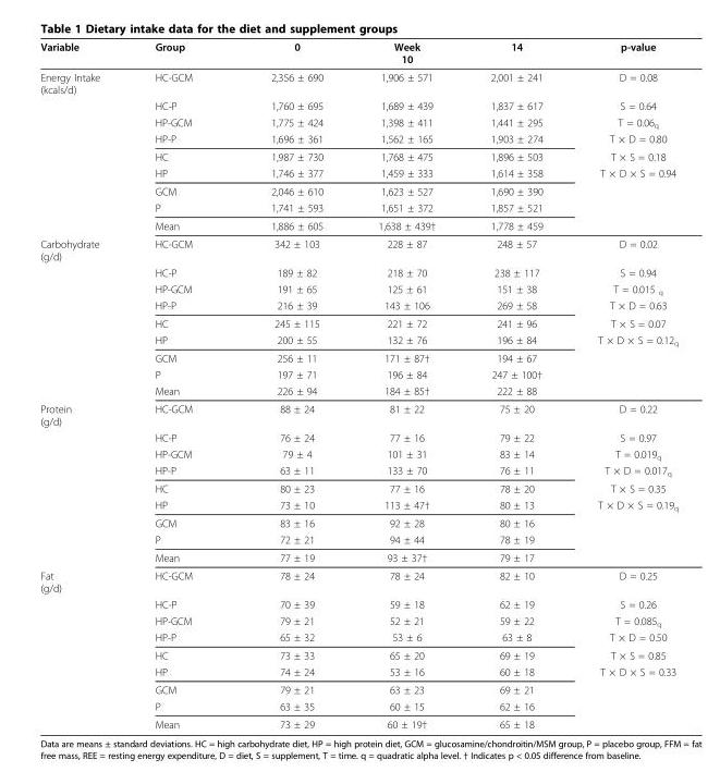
<table><thead><tr><td>Variable</td><td>Group</td><td>0</td><td>Week 10</td><td>14</td><td>p-value</td></tr></thead><tbody><tr><td rowspan="9">Energy Intake (kcals/d)</td><td>HC-GCM</td><td>2,356 ± 690</td><td>1,906 ± 571</td><td>2,001 ± 241</td><td>D = 0.08</td></tr><tr><td>HC-P</td><td>1,760 ± 695</td><td>1,689 ± 439</td><td>1,837 ± 617</td><td>S = 0.64</td></tr><tr><td>HP-GCM</td><td>1,775 ± 424</td><td>1,398 ± 411</td><td>1,441 ± 295</td><td>T = 0.06<sub>q</sub></td></tr><tr><td>HP-P</td><td>1,696 ± 361</td><td>1,562 ± 165</td><td>1,903 ± 274</td><td>T × D = 0.80</td></tr><tr><td>HC</td><td>1,987 ± 730</td><td>1,768 ± 475</td><td>1,896 ± 503</td><td>T × S = 0.18</td></tr><tr><td>HP</td><td>1,746 ± 377</td><td>1,459 ± 333</td><td>1,614 ± 358</td><td>T × D × S = 0.94</td></tr><tr><td>GCM</td><td>2,046 ± 610</td><td>1,623 ± 527</td><td>1,690 ± 390</td><td></td></tr><tr><td>P</td><td>1,741 ± 593</td><td>1,651 ± 372</td><td>1,857 ± 521</td><td></td></tr><tr><td>Mean</td><td>1,886 ± 605</td><td>1,638 ± 439†</td><td>1,778 ± 459</td><td></td></tr><tr><td rowspan="9">Carbohydrate (g/d)</td><td>HC-GCM</td><td>342 ± 103</td><td>228 ± 87</td><td>248 ± 57</td><td>D = 0.02</td></tr><tr><td>HC-P</td><td>189 ± 82</td><td>218 ± 70</td><td>238 ± 117</td><td>S = 0.94</td></tr><tr><td>HP-GCM</td><td>191 ± 65</td><td>125 ± 61</td><td>151 ± 38</td><td>T = 0.015 <sub>q</sub></td></tr><tr><td>HP-P</td><td>216 ± 39</td><td>143 ± 106</td><td>269 ± 58</td><td>T × D = 0.63</td></tr><tr><td>HC</td><td>245 ± 115</td><td>221 ± 72</td><td>241 ± 96</td><td>T × S = 0.07</td></tr><tr><td>HP</td><td>200 ± 55</td><td>132 ± 76</td><td>196 ± 84</td><td>T × D × S = 0.12<sub>q</sub></td></tr><tr><td>GCM</td><td>256 ± 11</td><td>171 ± 87†</td><td>194 ± 67</td><td></td></tr><tr><td>P</td><td>197 ± 71</td><td>196 ± 84</td><td>247 ± 100†</td><td></td></tr><tr><td>Mean</td><td>226 ± 94</td><td>184 ± 85†</td><td>222 ± 88</td><td></td></tr><tr><td rowspan="9">Protein (g/d)</td><td>HC-GCM</td><td>88 ± 24</td><td>81 ± 22</td><td>75 ± 20</td><td>D = 0.22</td></tr><tr><td>HC-P</td><td>76 ± 24</td><td>77 ± 16</td><td>79 ± 22</td><td>S = 0.97</td></tr><tr><td>HP-GCM</td><td>79 ± 4</td><td>101 ± 31</td><td>83 ± 14</td><td>T = 0.019<sub>q</sub></td></tr><tr><td>HP-P</td><td>63 ± 11</td><td>133 ± 70</td><td>76 ± 11</td><td>T × D = 0.017<sub>q</sub></td></tr><tr><td>HC</td><td>80 ± 23</td><td>77 ± 16</td><td>78 ± 20</td><td>T × S = 0.35</td></tr><tr><td>HP</td><td>73 ± 10</td><td>113 ± 47†</td><td>80 ± 13</td><td>T × D × S = 0.19<sub>q</sub></td></tr><tr><td>GCM</td><td>83 ± 16</td><td>92 ± 28</td><td>80 ± 16</td><td></td></tr><tr><td>P</td><td>72 ± 21</td><td>94 ± 44</td><td>78 ± 19</td><td></td></tr><tr><td>Mean</td><td>77 ± 19</td><td>93 ± 37†</td><td>79 ± 17</td><td></td></tr><tr><td rowspan="9">Fat (g/d)</td><td>HC-GCM</td><td>78 ± 24</td><td>78 ± 24</td><td>82 ± 10</td><td>D = 0.25</td></tr><tr><td>HC-P</td><td>70 ± 39</td><td>59 ± 18</td><td>62 ± 19</td><td>S = 0.26</td></tr><tr><td>HP-GCM</td><td>79 ± 21</td><td>52 ± 21</td><td>59 ± 22</td><td>T = 0.085<sub>q</sub></td></tr><tr><td>HP-P</td><td>65 ± 32</td><td>53 ± 6</td><td>63 ± 8</td><td>T × D = 0.50</td></tr><tr><td>HC</td><td>73 ± 33</td><td>65 ± 20</td><td>69 ± 19</td><td>T × S = 0.85</td></tr><tr><td>HP</td><td>74 ± 24</td><td>53 ± 16</td><td>60 ± 18</td><td>T × D × S = 0.33</td></tr><tr><td>GCM</td><td>79 ± 21</td><td>63 ± 23</td><td>69 ± 21</td><td></td></tr><tr><td>P</td><td>63 ± 35</td><td>60 ± 15</td><td>62 ± 16</td><td></td></tr><tr><td>Mean</td><td>73 ± 29</td><td>60 ± 19†</td><td>65 ± 18</td><td></td></tr></tbody></table>